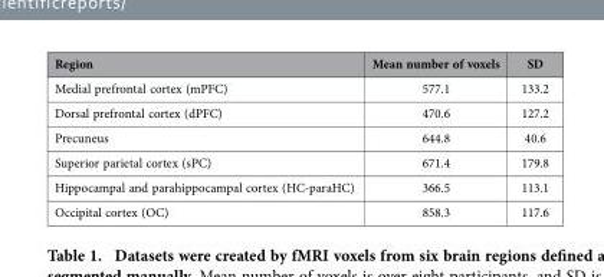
<table><thead><tr><td>Region</td><td>Mean number of voxels</td><td>SD</td></tr></thead><tbody><tr><td>Medial prefrontal cortex (mPFC)</td><td>577.1</td><td>133.2</td></tr><tr><td>Dorsal prefrontal cortex (dPFC)</td><td>470.6</td><td>127.2</td></tr><tr><td>Precuneus</td><td>644.8</td><td>40.6</td></tr><tr><td>Superior parietal cortex (sPC)</td><td>671.4</td><td>179.8</td></tr><tr><td>Hippocampal and parahippocampal cortex (HC-paraHC)</td><td>366.5</td><td>113.1</td></tr><tr><td>Occipital cortex (OC)</td><td>858.3</td><td>117.6</td></tr></tbody></table>